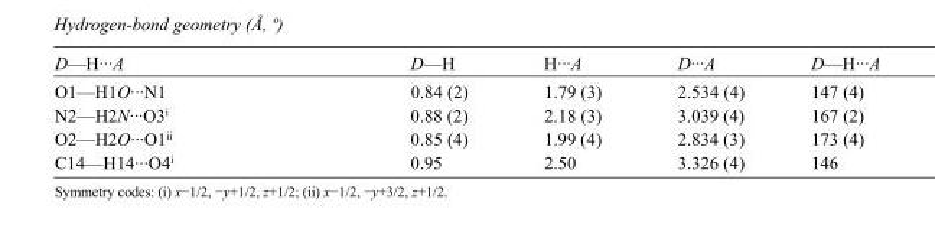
<table><tbody><tr><td>D—H···A</td><td>D—H</td><td>H···A</td><td>D···A</td><td>D—H···A</td></tr><tr><td>O1—H1O···N1</td><td>0.84 (2)</td><td>1.79 (3)</td><td>2.534 (4)</td><td>147 (4)</td></tr><tr><td>N2—H2N···O3<sup>i</sup></td><td>0.88 (2)</td><td>2.18 (3)</td><td>3.039 (4)</td><td>167 (2)</td></tr><tr><td>O2—H2O···O1<sup>ii</sup></td><td>0.85 (4)</td><td>1.99 (4)</td><td>2.834 (3)</td><td>173 (4)</td></tr><tr><td>C14—H14···O4<sup>i</sup></td><td>0.95</td><td>2.50</td><td>3.326 (4)</td><td>146</td></tr></tbody></table>